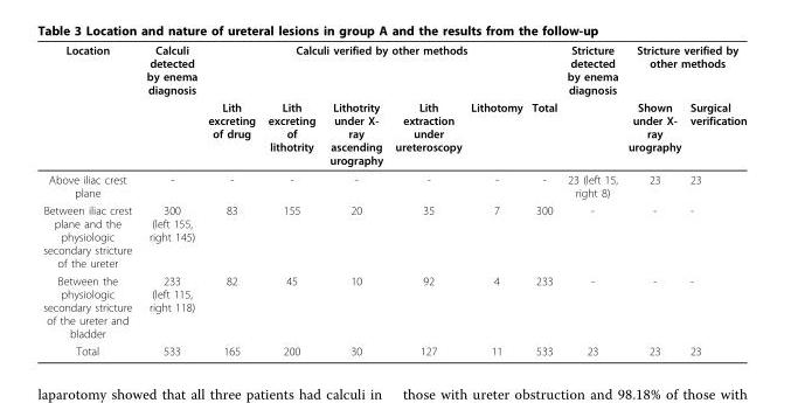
<table><thead><tr><td rowspan="2">Location</td><td rowspan="2">Calculi detected by enema diagnosis</td><td colspan="6">Calculi verified by other methods</td><td rowspan="2">Stricture detected by enema diagnosis</td><td colspan="2">Stricture verified by other methods</td></tr><tr><td>Lith excreting of drug</td><td>Lith excreting of lithotrity</td><td>Lithotrity under X- ray ascending urography</td><td>Lith extraction under ureteroscopy</td><td>Lithotomy</td><td>Total</td><td>Shown under X- ray urography</td><td>Surgical verification</td></tr></thead><tbody><tr><td>Above iliac crest plane</td><td>-</td><td>-</td><td>-</td><td>-</td><td>-</td><td>-</td><td>-</td><td>23 (left 15, right 8)</td><td>23</td><td>23</td></tr><tr><td>Between iliac crest plane and the physiologic secondary stricture of the ureter</td><td>300 (left 155, right 145)</td><td>83</td><td>155</td><td>20</td><td>35</td><td>7</td><td>300</td><td>-</td><td>-</td><td>-</td></tr><tr><td>Between the physiologic secondary stricture of the ureter and bladder</td><td>233 (left 115, right 118)</td><td>82</td><td>45</td><td>10</td><td>92</td><td>4</td><td>233</td><td>-</td><td>-</td><td>-</td></tr><tr><td>Total</td><td>533</td><td>165</td><td>200</td><td>30</td><td>127</td><td>11</td><td>533</td><td>23</td><td>23</td><td>23</td></tr></tbody></table>